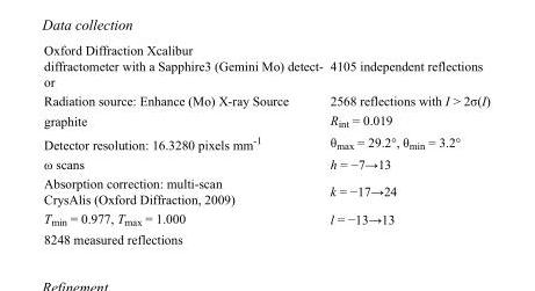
<table><tbody><tr><td>Oxford Diffraction Xcalibur diffractometer with a Sapphire3 (Gemini Mo) detect- or</td><td>4105 independent reflections</td></tr><tr><td>Radiation source: Enhance (Mo) X-ray Source</td><td>2568 reflections with I &gt; 2σ(I)</td></tr><tr><td>graphite</td><td>R<sub>int</sub> = 0.019</td></tr><tr><td>Detector resolution: 16.3280 pixels mm<sup>-1</sup></td><td>θ<sub>max</sub> = 29.2°, θ<sub>min</sub> = 3.2°</td></tr><tr><td>ω scans</td><td>h = −7→13</td></tr><tr><td>Absorption correction: multi-scan CrysAlis (Oxford Diffraction, 2009)</td><td>k = −17→24</td></tr><tr><td>T<sub>min</sub> = 0.977, T<sub>max</sub> = 1.000</td><td>l = −13→13</td></tr><tr><td>8248 measured reflections</td><td></td></tr></tbody></table>